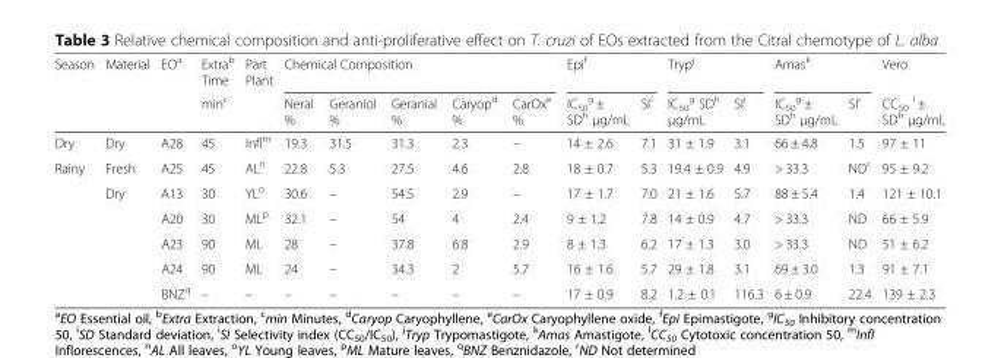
<table><thead><tr><td rowspan="2">Season</td><td rowspan="2">Material</td><td rowspan="2">EO<sup>a</sup></td><td rowspan="2">Extra<sup>b</sup> Time min<sup>c</sup></td><td rowspan="2">Part Plant</td><td colspan="5">Chemical Composition</td><td colspan="2">Epi<sup>f</sup></td><td colspan="2">Tryp<sup>j</sup></td><td colspan="2">Amas<sup>k</sup></td><td rowspan="2">Vero CC<sub>50</sub> <sup>l</sup> ± SD<sup>h</sup> μg/mL</td></tr><tr><td>Neral %</td><td>Geraniol %</td><td>Geranial %</td><td>Caryop<sup>d</sup> %</td><td>CarOx<sup>e</sup> %</td><td>IC<sub>50</sub> <sup>g</sup> ± SD<sup>h</sup> μg/mL</td><td>SI<sup>i</sup></td><td>IC<sub>50</sub> <sup>g</sup> SD<sup>h</sup> μg/mL</td><td>SI<sup>i</sup></td><td>IC<sub>50</sub> <sup>g</sup> ± SD<sup>h</sup> μg/mL</td><td>SI<sup>i</sup></td></tr></thead><tbody><tr><td>Dry</td><td>Dry</td><td>A28</td><td>45</td><td>Infl<sup>m</sup></td><td>19.3</td><td>31.5</td><td>31.3</td><td>2.3</td><td>–</td><td>14 ± 2.6</td><td>7.1</td><td>31 ± 1.9</td><td>3.1</td><td>66 ± 4.8</td><td>1.5</td><td>97 ± 11</td></tr><tr><td rowspan="6">Rainy</td><td>Fresh</td><td>A25</td><td>45</td><td>AL<sup>n</sup></td><td>22.8</td><td>5.3</td><td>27.5</td><td>4.6</td><td>2.8</td><td>18 ± 0.7</td><td>5.3</td><td>19.4 ± 0.9</td><td>4.9</td><td>&gt; 33.3</td><td>ND<sup>r</sup></td><td>95 ± 9.2</td></tr><tr><td rowspan="5">Dry</td><td>A13</td><td>30</td><td>YL<sup>o</sup></td><td>30.6</td><td>–</td><td>54.5</td><td>2.9</td><td>–</td><td>17 ± 1.7</td><td>7.0</td><td>21 ± 1.6</td><td>5.7</td><td>88 ± 5.4</td><td>1.4</td><td>121 ± 10.1</td></tr><tr><td>A20</td><td>30</td><td>ML<sup>p</sup></td><td>32.1</td><td>–</td><td>54</td><td>4</td><td>2.4</td><td>9 ± 1.2</td><td>7.8</td><td>14 ± 0.9</td><td>4.7</td><td>&gt; 33.3</td><td>ND</td><td>66 ± 5.9</td></tr><tr><td>A23</td><td>90</td><td>ML</td><td>28</td><td>–</td><td>37.8</td><td>6.8</td><td>2.9</td><td>8 ± 1.3</td><td>6.2</td><td>17 ± 1.3</td><td>3.0</td><td>&gt; 33.3</td><td>ND</td><td>51 ± 6.2</td></tr><tr><td>A24</td><td>90</td><td>ML</td><td>24</td><td>–</td><td>34.3</td><td>2</td><td>5.7</td><td>16 ± 1.6</td><td>5.7</td><td>29 ± 1.8</td><td>3.1</td><td>69 ± 3.0</td><td>1.3</td><td>91 ± 7.1</td></tr><tr><td>BNZ<sup>q</sup></td><td>–</td><td>–</td><td>–</td><td>–</td><td>–</td><td>–</td><td>–</td><td>17 ± 0.9</td><td>8.2</td><td>1.2 ± 0.1</td><td>116.3</td><td>6 ± 0.9</td><td>22.4</td><td>139 ± 2.3</td></tr></tbody></table>